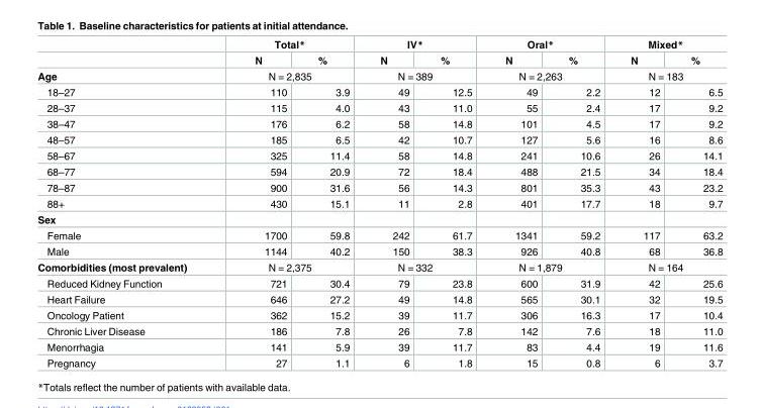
<table><thead><tr><td rowspan="2"></td><td colspan="2">Total*</td><td colspan="2">IV*</td><td colspan="2">Oral*</td><td colspan="2">Mixed*</td></tr><tr><td>N</td><td>%</td><td>N</td><td>%</td><td>N</td><td>%</td><td>N</td><td>%</td></tr></thead><tbody><tr><td>Age</td><td colspan="2">N = 2,835</td><td colspan="2">N = 389</td><td colspan="2">N = 2,263</td><td colspan="2">N = 183</td></tr><tr><td>18–27</td><td>110</td><td>3.9</td><td>49</td><td>12.5</td><td>49</td><td>2.2</td><td>12</td><td>6.5</td></tr><tr><td>28–37</td><td>115</td><td>4.0</td><td>43</td><td>11.0</td><td>55</td><td>2.4</td><td>17</td><td>9.2</td></tr><tr><td>38–47</td><td>176</td><td>6.2</td><td>58</td><td>14.8</td><td>101</td><td>4.5</td><td>17</td><td>9.2</td></tr><tr><td>48–57</td><td>185</td><td>6.5</td><td>42</td><td>10.7</td><td>127</td><td>5.6</td><td>16</td><td>8.6</td></tr><tr><td>58–67</td><td>325</td><td>11.4</td><td>58</td><td>14.8</td><td>241</td><td>10.6</td><td>26</td><td>14.1</td></tr><tr><td>68–77</td><td>594</td><td>20.9</td><td>72</td><td>18.4</td><td>488</td><td>21.5</td><td>34</td><td>18.4</td></tr><tr><td>78–87</td><td>900</td><td>31.6</td><td>56</td><td>14.3</td><td>801</td><td>35.3</td><td>43</td><td>23.2</td></tr><tr><td>88+</td><td>430</td><td>15.1</td><td>11</td><td>2.8</td><td>401</td><td>17.7</td><td>18</td><td>9.7</td></tr><tr><td colspan="9">Sex</td></tr><tr><td>Female</td><td>1700</td><td>59.8</td><td>242</td><td>61.7</td><td>1341</td><td>59.2</td><td>117</td><td>63.2</td></tr><tr><td>Male</td><td>1144</td><td>40.2</td><td>150</td><td>38.3</td><td>926</td><td>40.8</td><td>68</td><td>36.8</td></tr><tr><td>Comorbidities (most prevalent)</td><td colspan="2">N = 2,375</td><td colspan="2">N = 332</td><td colspan="2">N = 1,879</td><td colspan="2">N = 164</td></tr><tr><td>Reduced Kidney Function</td><td>721</td><td>30.4</td><td>79</td><td>23.8</td><td>600</td><td>31.9</td><td>42</td><td>25.6</td></tr><tr><td>Heart Failure</td><td>646</td><td>27.2</td><td>49</td><td>14.8</td><td>565</td><td>30.1</td><td>32</td><td>19.5</td></tr><tr><td>Oncology Patient</td><td>362</td><td>15.2</td><td>39</td><td>11.7</td><td>306</td><td>16.3</td><td>17</td><td>10.4</td></tr><tr><td>Chronic Liver Disease</td><td>186</td><td>7.8</td><td>26</td><td>7.8</td><td>142</td><td>7.6</td><td>18</td><td>11.0</td></tr><tr><td>Menorrhagia</td><td>141</td><td>5.9</td><td>39</td><td>11.7</td><td>83</td><td>4.4</td><td>19</td><td>11.6</td></tr><tr><td>Pregnancy</td><td>27</td><td>1.1</td><td>6</td><td>1.8</td><td>15</td><td>0.8</td><td>6</td><td>3.7</td></tr></tbody></table>